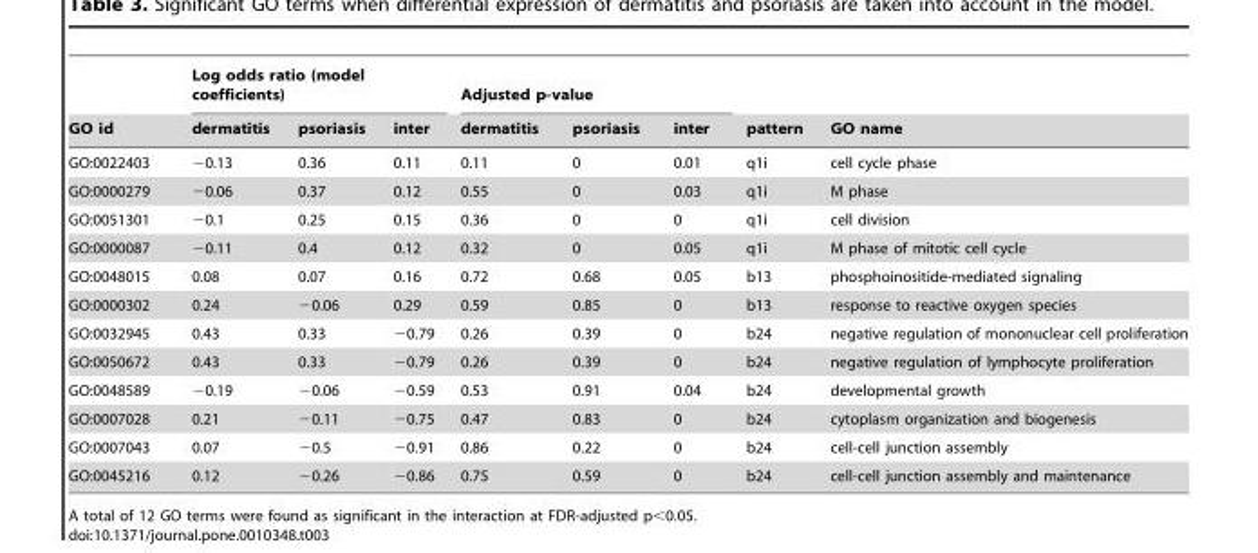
<table><thead><tr><td rowspan="2">GO id</td><td colspan="3">Log odds ratio (model coefficients)</td><td colspan="3">Adjusted p-value</td><td rowspan="2">pattern</td><td rowspan="2">GO name</td></tr><tr><td>dermatitis</td><td>psoriasis</td><td>inter</td><td>dermatitis</td><td>psoriasis</td><td>inter</td></tr></thead><tbody><tr><td>GO:0022403</td><td>−0.13</td><td>0.36</td><td>0.11</td><td>0.11</td><td>0</td><td>0.01</td><td>q1i</td><td>cell cycle phase</td></tr><tr><td>GO:0000279</td><td>−0.06</td><td>0.37</td><td>0.12</td><td>0.55</td><td>0</td><td>0.03</td><td>q1i</td><td>M phase</td></tr><tr><td>GO:0051301</td><td>−0.1</td><td>0.25</td><td>0.15</td><td>0.36</td><td>0</td><td>0</td><td>q1i</td><td>cell division</td></tr><tr><td>GO:0000087</td><td>−0.11</td><td>0.4</td><td>0.12</td><td>0.32</td><td>0</td><td>0.05</td><td>q1i</td><td>M phase of mitotic cell cycle</td></tr><tr><td>GO:0048015</td><td>0.08</td><td>0.07</td><td>0.16</td><td>0.72</td><td>0.68</td><td>0.05</td><td>b13</td><td>phosphoinositide-mediated signaling</td></tr><tr><td>GO:0000302</td><td>0.24</td><td>−0.06</td><td>0.29</td><td>0.59</td><td>0.85</td><td>0</td><td>b13</td><td>response to reactive oxygen species</td></tr><tr><td>GO:0032945</td><td>0.43</td><td>0.33</td><td>−0.79</td><td>0.26</td><td>0.39</td><td>0</td><td>b24</td><td>negative regulation of mononuclear cell proliferation</td></tr><tr><td>GO:0050672</td><td>0.43</td><td>0.33</td><td>−0.79</td><td>0.26</td><td>0.39</td><td>0</td><td>b24</td><td>negative regulation of lymphocyte proliferation</td></tr><tr><td>GO:0048589</td><td>−0.19</td><td>−0.06</td><td>−0.59</td><td>0.53</td><td>0.91</td><td>0.04</td><td>b24</td><td>developmental growth</td></tr><tr><td>GO:0007028</td><td>0.21</td><td>−0.11</td><td>−0.75</td><td>0.47</td><td>0.83</td><td>0</td><td>b24</td><td>cytoplasm organization and biogenesis</td></tr><tr><td>GO:0007043</td><td>0.07</td><td>−0.5</td><td>−0.91</td><td>0.86</td><td>0.22</td><td>0</td><td>b24</td><td>cell-cell junction assembly</td></tr><tr><td>GO:0045216</td><td>0.12</td><td>−0.26</td><td>−0.86</td><td>0.75</td><td>0.59</td><td>0</td><td>b24</td><td>cell-cell junction assembly and maintenance</td></tr></tbody></table>